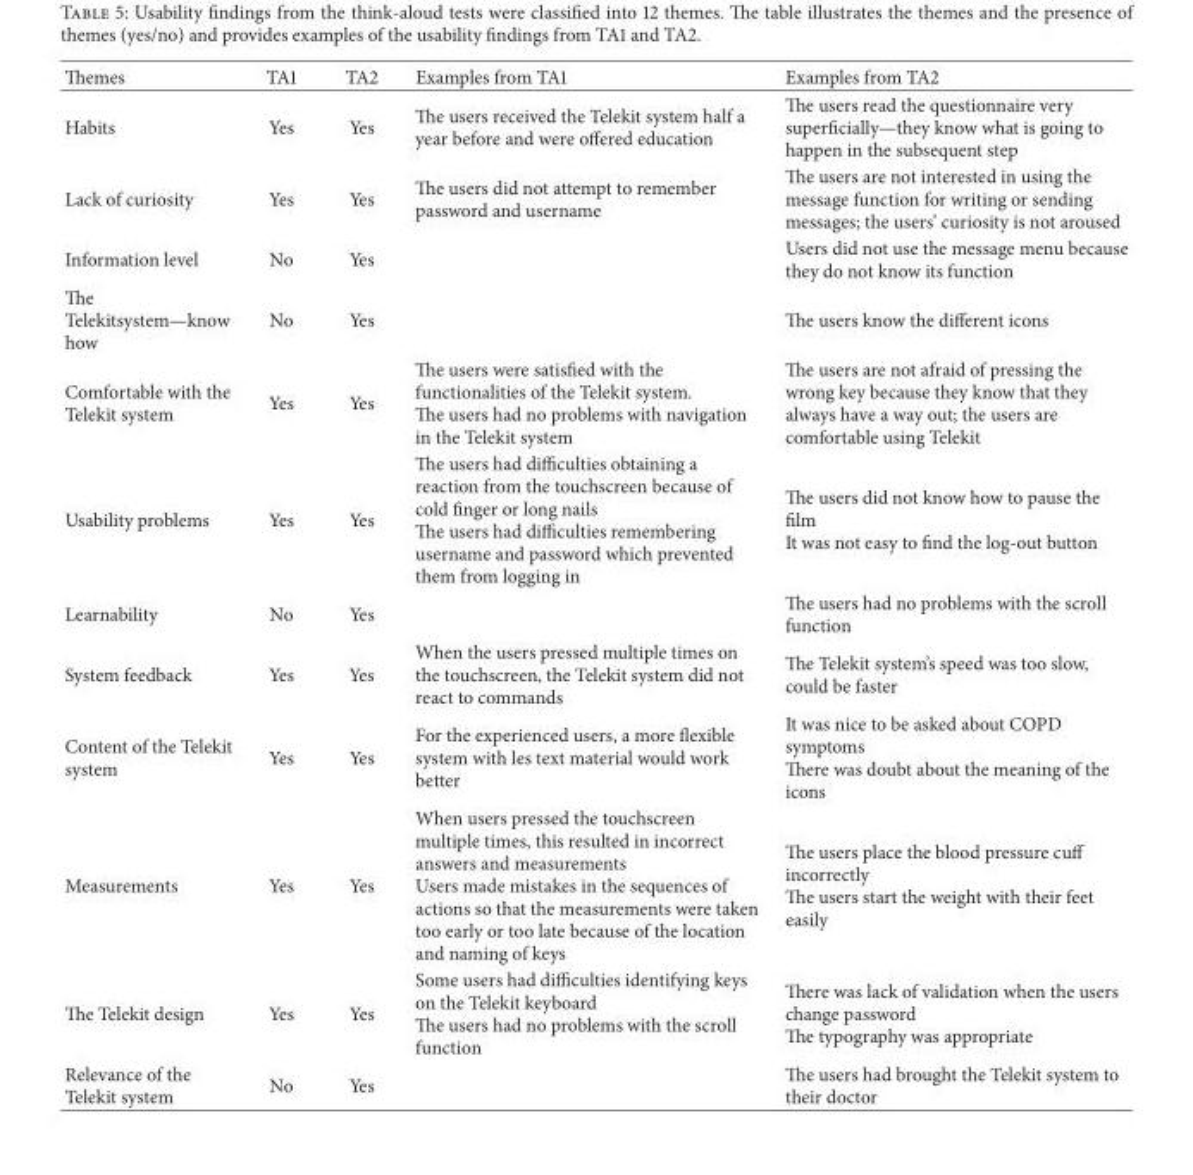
<table><thead><tr><td>Themes</td><td>TA1</td><td>TA2</td><td>Examples from TA1</td><td>Examples from TA2</td></tr></thead><tbody><tr><td>Habits</td><td>Yes</td><td>Yes</td><td>The users received the Telekit system half a year before and were offered education</td><td>The users read the questionnaire very superficially—they know what is going to happen in the subsequent step</td></tr><tr><td>Lack of curiosity</td><td>Yes</td><td>Yes</td><td>The users did not attempt to remember password and username</td><td>The users are not interested in using the message function for writing or sending messages; the users’ curiosity is not aroused</td></tr><tr><td>Information level</td><td>No</td><td>Yes</td><td></td><td>Users did not use the message menu because they do not know its function</td></tr><tr><td>The Telekitsystem—know how</td><td>No</td><td>Yes</td><td></td><td>The users know the different icons</td></tr><tr><td>Comfortable with the Telekit system</td><td>Yes</td><td>Yes</td><td>The users were satisfied with the functionalities of the Telekit system. The users had no problems with navigation in the Telekit system</td><td>The users are not afraid of pressing the wrong key because they know that they always have a way out; the users are comfortable using Telekit</td></tr><tr><td>Usability problems</td><td>Yes</td><td>Yes</td><td>The users had difficulties obtaining a reaction from the touchscreen because of cold finger or long nails The users had difficulties remembering username and password which prevented them from logging in</td><td>The users did not know how to pause the film It was not easy to find the log-out button</td></tr><tr><td>Learnability</td><td>No</td><td>Yes</td><td></td><td>The users had no problems with the scroll function</td></tr><tr><td>System feedback</td><td>Yes</td><td>Yes</td><td>When the users pressed multiple times on the touchscreen, the Telekit system did not react to commands</td><td>The Telekit system’s speed was too slow, could be faster</td></tr><tr><td>Content of the Telekit system</td><td>Yes</td><td>Yes</td><td>For the experienced users, a more flexible system with les text material would work better</td><td>It was nice to be asked about COPD symptoms There was doubt about the meaning of the icons</td></tr><tr><td>Measurements</td><td>Yes</td><td>Yes</td><td>When users pressed the touchscreen multiple times, this resulted in incorrect answers and measurements Users made mistakes in the sequences of actions so that the measurements were taken too early or too late because of the location and naming of keys</td><td>The users place the blood pressure cuff incorrectly The users start the weight with their feet easily</td></tr><tr><td>The Telekit design</td><td>Yes</td><td>Yes</td><td>Some users had difficulties identifying keys on the Telekit keyboard The users had no problems with the scroll function</td><td>There was lack of validation when the users change password The typography was appropriate</td></tr><tr><td>Relevance of the Telekit system</td><td>No</td><td>Yes</td><td></td><td>The users had brought the Telekit system to their doctor</td></tr></tbody></table>